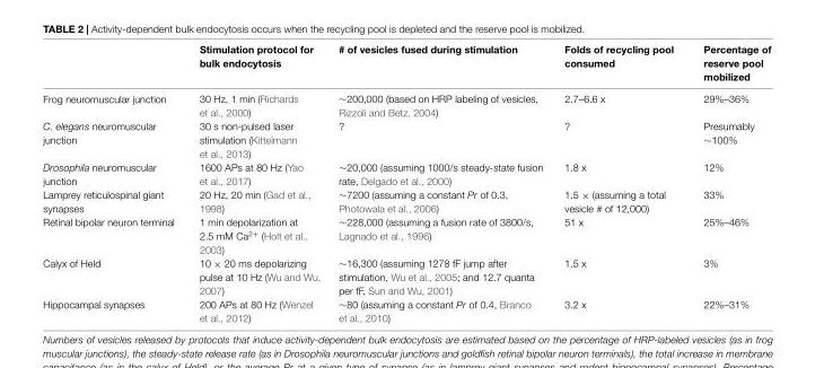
<table><thead><tr><td></td><td>Stimulation protocol for bulk endocytosis</td><td># of vesicles fused during stimulation</td><td>Folds of recycling pool consumed</td><td>Percentage of reserve pool mobilized</td></tr></thead><tbody><tr><td>Frog neuromuscular junction</td><td>30 Hz, 1 min (Richards et al., 2000)</td><td>∼200,000 (based on HRP labeling of vesicles, Rizzoli and Betz, 2004)</td><td>2.7–6.6 x</td><td>29%–36%</td></tr><tr><td>C. elegans neuromuscular junction</td><td>30 s non-pulsed laser stimulation (Kittelmann et al., 2013)</td><td>?</td><td>?</td><td>Presumably ∼100%</td></tr><tr><td>Drosophila neuromuscular junction</td><td>1600 APs at 80 Hz (Yao et al., 2017)</td><td>∼20,000 (assuming 1000/s steady-state fusion rate, Delgado et al., 2000)</td><td>1.8 x</td><td>12%</td></tr><tr><td>Lamprey reticulospinal giant synapses</td><td>20 Hz, 20 min (Gad et al., 1998)</td><td>∼7200 (assuming a constant Pr of 0.3, Photowala et al., 2006)</td><td>1.5 × (assuming a total vesicle # of 12,000)</td><td>33%</td></tr><tr><td>Retinal bipolar neuron terminal</td><td>1 min depolarization at 2.5 mM Ca<sup>2+</sup> (Holt et al., 2003)</td><td>∼228,000 (assuming a fusion rate of 3800/s, Lagnado et al., 1996)</td><td>51 x</td><td>25%–46%</td></tr><tr><td>Calyx of Held</td><td>10 × 20 ms depolarizing pulse at 10 Hz (Wu and Wu, 2007)</td><td>∼16,300 (assuming 1278 fF jump after stimulation, Wu et al., 2005; and 12.7 quanta per fF, Sun and Wu, 2001)</td><td>1.5 x</td><td>3%</td></tr><tr><td>Hippocampal synapses</td><td>200 APs at 80 Hz (Wenzel et al., 2012)</td><td>∼80 (assuming a constant Pr of 0.4, Branco et al., 2010)</td><td>3.2 x</td><td>22%–31%</td></tr></tbody></table>